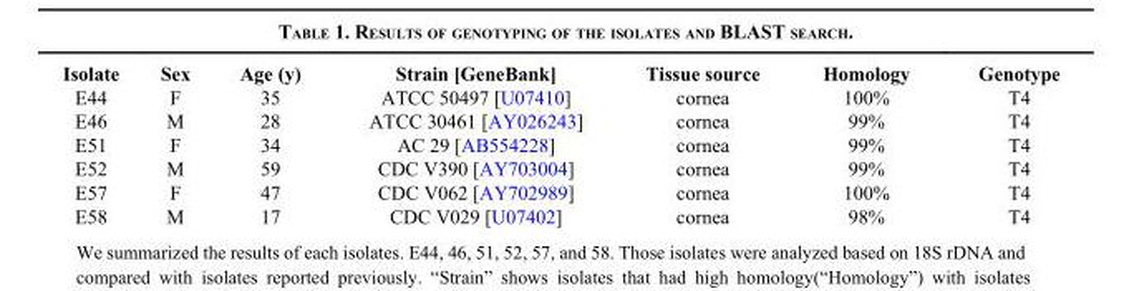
<table><thead><tr><td>Isolate</td><td>Sex</td><td>Age (y)</td><td>Strain [GeneBank]</td><td>Tissue source</td><td>Homology</td><td>Genotype</td></tr></thead><tbody><tr><td>E44</td><td>F</td><td>35</td><td>ATCC 50497 [U07410]</td><td>cornea</td><td>100%</td><td>T4</td></tr><tr><td>E46</td><td>M</td><td>28</td><td>ATCC 30461 [AY026243]</td><td>cornea</td><td>99%</td><td>T4</td></tr><tr><td>E51</td><td>F</td><td>34</td><td>AC 29 [AB554228]</td><td>cornea</td><td>99%</td><td>T4</td></tr><tr><td>E52</td><td>M</td><td>59</td><td>CDC V390 [AY703004]</td><td>cornea</td><td>99%</td><td>T4</td></tr><tr><td>E57</td><td>F</td><td>47</td><td>CDC V062 [AY702989]</td><td>cornea</td><td>100%</td><td>T4</td></tr><tr><td>E58</td><td>M</td><td>17</td><td>CDC V029 [U07402]</td><td>cornea</td><td>98%</td><td>T4</td></tr></tbody></table>